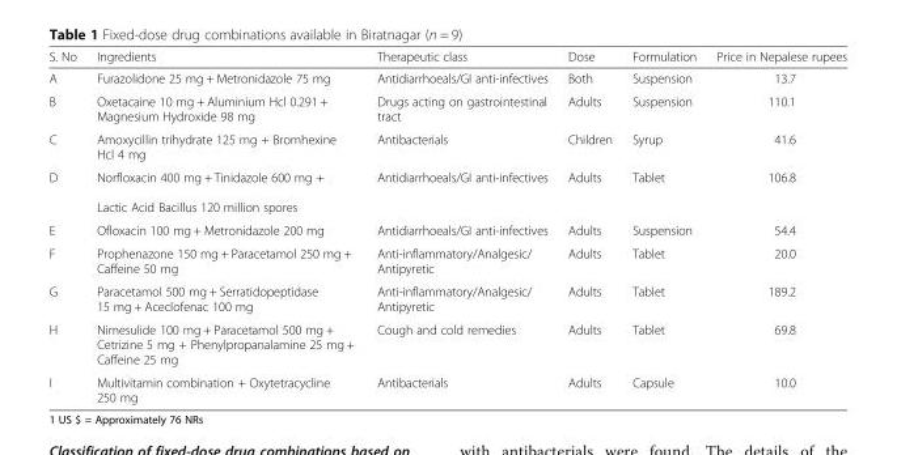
<table><thead><tr><td>S. No</td><td>Ingredients</td><td>Therapeutic class</td><td>Dose</td><td>Formulation</td><td>Price in Nepalese rupees</td></tr></thead><tbody><tr><td>A</td><td>Furazolidone 25 mg + Metronidazole 75 mg</td><td>Antidiarrhoeals/GI anti-infectives</td><td>Both</td><td>Suspension</td><td>13.7</td></tr><tr><td>B</td><td>Oxetacaine 10 mg + Aluminium Hcl 0.291 + Magnesium Hydroxide 98 mg</td><td>Drugs acting on gastrointestinal tract</td><td>Adults</td><td>Suspension</td><td>110.1</td></tr><tr><td>C</td><td>Amoxycillin trihydrate 125 mg + Bromhexine Hcl 4 mg</td><td>Antibacterials</td><td>Children</td><td>Syrup</td><td>41.6</td></tr><tr><td>D</td><td>Norfloxacin 400 mg + Tinidazole 600 mg + Lactic Acid Bacillus 120 million spores</td><td>Antidiarrhoeals/GI anti-infectives</td><td>Adults</td><td>Tablet</td><td>106.8</td></tr><tr><td>E</td><td>Ofloxacin 100 mg + Metronidazole 200 mg</td><td>Antidiarrhoeals/GI anti-infectives</td><td>Adults</td><td>Suspension</td><td>54.4</td></tr><tr><td>F</td><td>Prophenazone 150 mg + Paracetamol 250 mg + Caffeine 50 mg</td><td>Anti-inflammatory/Analgesic/ Antipyretic</td><td>Adults</td><td>Tablet</td><td>20.0</td></tr><tr><td>G</td><td>Paracetamol 500 mg + Serratidopeptidase 15 mg + Aceclofenac 100 mg</td><td>Anti-inflammatory/Analgesic/ Antipyretic</td><td>Adults</td><td>Tablet</td><td>189.2</td></tr><tr><td>H</td><td>Nimesulide 100 mg + Paracetamol 500 mg + Cetrizine 5 mg + Phenylpropanalamine 25 mg + Caffeine 25 mg</td><td>Cough and cold remedies</td><td>Adults</td><td>Tablet</td><td>69.8</td></tr><tr><td>I</td><td>Multivitamin combination + Oxytetracycline 250 mg</td><td>Antibacterials</td><td>Adults</td><td>Capsule</td><td>10.0</td></tr></tbody></table>